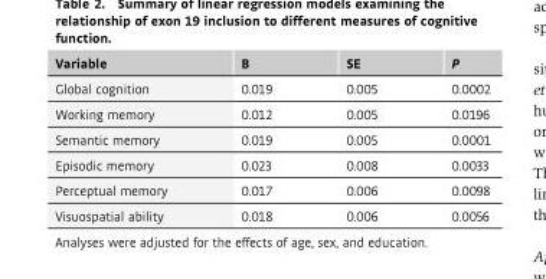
<table><thead><tr><td>Variable</td><td>B</td><td>SE</td><td>P</td></tr></thead><tbody><tr><td>Global cognition</td><td>0.019</td><td>0.005</td><td>0.0002</td></tr><tr><td>Working memory</td><td>0.012</td><td>0.005</td><td>0.0196</td></tr><tr><td>Semantic memory</td><td>0.019</td><td>0.005</td><td>0.0001</td></tr><tr><td>Episodic memory</td><td>0.023</td><td>0.008</td><td>0.0033</td></tr><tr><td>Perceptual memory</td><td>0.017</td><td>0.006</td><td>0.0098</td></tr><tr><td>Visuospatial ability</td><td>0.018</td><td>0.006</td><td>0.0056</td></tr></tbody></table>